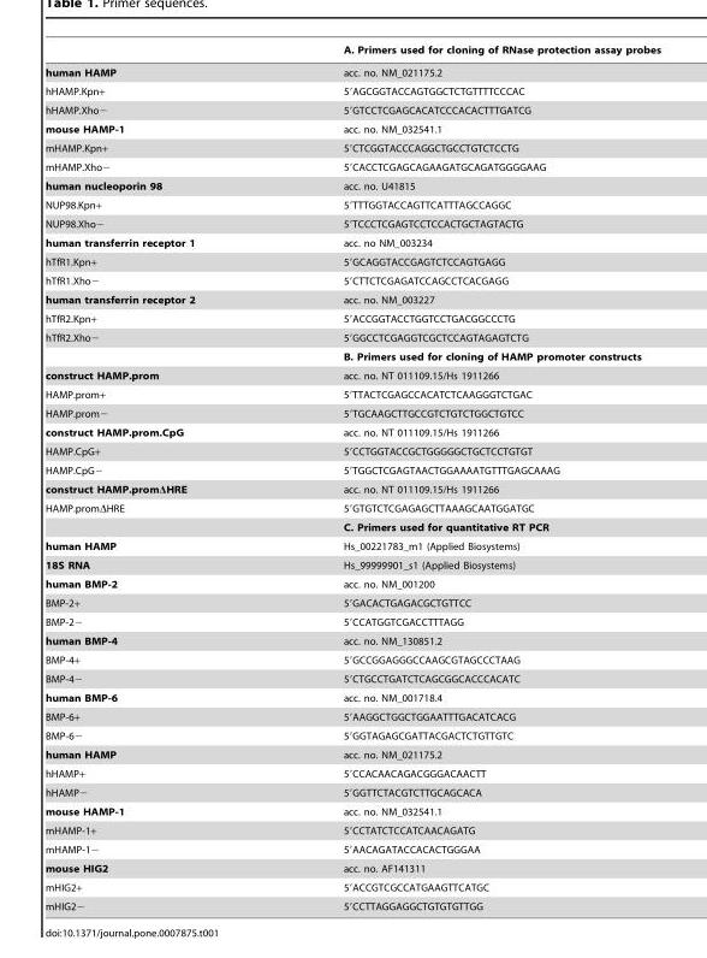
<table><thead><tr><td></td><td>A. Primers used for cloning of RNase protection assay probes</td></tr></thead><tbody><tr><td>human HAMP</td><td>acc. no. NM_021175.2</td></tr><tr><td>hHAMP.Kpn+</td><td>5′AGCGGTACCAGTGGCTCTGTTTTCCCAC</td></tr><tr><td>hHAMP.Xho−</td><td>5′GTCCTCGAGCACATCCCACACTTTGATCG</td></tr><tr><td>mouse HAMP-1</td><td>acc. no. NM_032541.1</td></tr><tr><td>mHAMP.Kpn+</td><td>5′CTCGGTACCCAGGCTGCCTGTCTCCTG</td></tr><tr><td>mHAMP.Xho−</td><td>5′CACCTCGAGCAGAAGATGCAGATGGGGAAG</td></tr><tr><td>human nucleoporin 98</td><td>acc. no. U41815</td></tr><tr><td>NUP98.Kpn+</td><td>5′TTTGGTACCAGTTCATTTAGCCAGGC</td></tr><tr><td>NUP98.Xho−</td><td>5′TCCCTCGAGTCCTCCACTGCTAGTACTG</td></tr><tr><td>human transferrin receptor 1</td><td>acc. no NM_003234</td></tr><tr><td>hTfR1.Kpn+</td><td>5′GCAGGTACCGAGTCTCCAGTGAGG</td></tr><tr><td>hTfR1.Xho−</td><td>5′CTTCTCGAGATCCAGCCTCACGAGG</td></tr><tr><td>human transferrin receptor 2</td><td>acc. no. NM_003227</td></tr><tr><td>hTfR2.Kpn+</td><td>5′ACCGGTACCTGGTCCTGACGGCCCTG</td></tr><tr><td rowspan="2">hTfR2.Xho−</td><td>5′GGCCTCGAGGTCGCTCCAGTAGAGTCTG</td></tr><tr><td>B. Primers used for cloning of HAMP promoter constructs</td></tr><tr><td>construct HAMP.prom</td><td>acc. no. NT 011109.15/Hs 1911266</td></tr><tr><td>HAMP.prom+</td><td>5′TTACTCGAGCCACATCTCAAGGGTCTGAC</td></tr><tr><td>HAMP.prom−</td><td>5′TGCAAGCTTGCCGTCTGTCTGGCTGTCC</td></tr><tr><td>construct HAMP.prom.CpG</td><td>acc. no. NT 011109.15/Hs 1911266</td></tr><tr><td>HAMP.CpG+</td><td>5′CCTGGTACCGCTGGGGGCTGCTCCTGTGT</td></tr><tr><td>HAMP.CpG−</td><td>5′TGGCTCGAGTAACTGGAAAATGTTTGAGCAAAG</td></tr><tr><td>construct HAMP.promΔHRE</td><td>acc. no. NT 011109.15/Hs 1911266</td></tr><tr><td rowspan="2">HAMP.promΔHRE</td><td>5′GTGTCTCGAGAGCTTAAAGCAATGGATGC</td></tr><tr><td>C. Primers used for quantitative RT PCR</td></tr><tr><td>human HAMP</td><td>Hs_00221783_m1 (Applied Biosystems)</td></tr><tr><td>18S RNA</td><td>Hs_99999901_s1 (Applied Biosystems)</td></tr><tr><td>human BMP-2</td><td>acc. no. NM_001200</td></tr><tr><td>BMP-2+</td><td>5′GACACTGAGACGCTGTTCC</td></tr><tr><td>BMP-2−</td><td>5′CCATGGTCGACCTTTAGG</td></tr><tr><td>human BMP-4</td><td>acc. no. NM_130851.2</td></tr><tr><td>BMP-4+</td><td>5′GCCGGAGGGCCAAGCGTAGCCCTAAG</td></tr><tr><td>BMP-4−</td><td>5′CTGCCTGATCTCAGCGGCACCCACATC</td></tr><tr><td>human BMP-6</td><td>acc. no. NM_001718.4</td></tr><tr><td>BMP-6+</td><td>5′AAGGCTGGCTGGAATTTGACATCACG</td></tr><tr><td>BMP-6−</td><td>5′GGTAGAGCGATTACGACTCTGTTGTC</td></tr><tr><td>human HAMP</td><td>acc. no. NM_021175.2</td></tr><tr><td>hHAMP+</td><td>5′CCACAACAGACGGGACAACTT</td></tr><tr><td>hHAMP−</td><td>5′GGTTCTACGTCTTGCAGCACA</td></tr><tr><td>mouse HAMP-1</td><td>acc. no. NM_032541.1</td></tr><tr><td>mHAMP-1+</td><td>5′CCTATCTCCATCAACAGATG</td></tr><tr><td>mHAMP-1−</td><td>5′AACAGATACCACACTGGGAA</td></tr><tr><td>mouse HIG2</td><td>acc. no. AF141311</td></tr><tr><td>mHIG2+</td><td>5′ACCGTCGCCATGAAGTTCATGC</td></tr><tr><td>mHIG2−</td><td>5′CCTTAGGAGGCTGTGTGTTGG</td></tr></tbody></table>